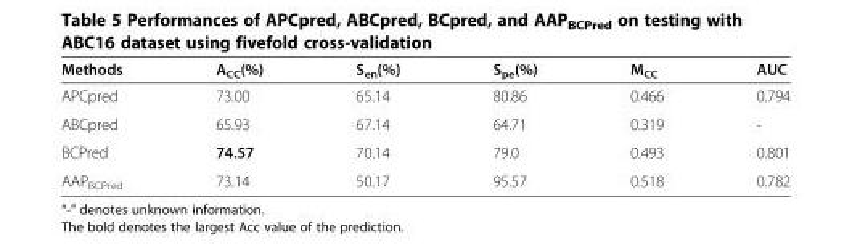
<table><thead><tr><td>Methods</td><td>A<sub>CC</sub>(%)</td><td>S<sub>en</sub>(%)</td><td>S<sub>pe</sub>(%)</td><td>M<sub>CC</sub></td><td>AUC</td></tr></thead><tbody><tr><td>APCpred</td><td>73.00</td><td>65.14</td><td>80.86</td><td>0.466</td><td>0.794</td></tr><tr><td>ABCpred</td><td>65.93</td><td>67.14</td><td>64.71</td><td>0.319</td><td>-</td></tr><tr><td>BCPred</td><td>74.57</td><td>70.14</td><td>79.0</td><td>0.493</td><td>0.801</td></tr><tr><td>AAP<sub>BCPred</sub></td><td>73.14</td><td>50.17</td><td>95.57</td><td>0.518</td><td>0.782</td></tr></tbody></table>